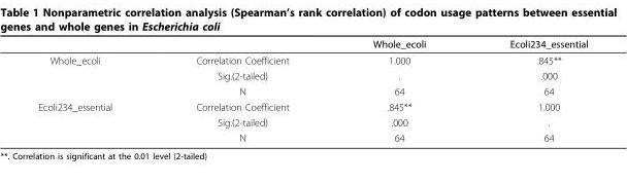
<table><thead><tr><td></td><td></td><td>Whole_ecoli</td><td>Ecoli234_essential</td></tr></thead><tbody><tr><td rowspan="3">Whole_ecoli</td><td>Correlation Coefficient</td><td>1.000</td><td>.845**</td></tr><tr><td>Sig.(2-tailed)</td><td>.</td><td>.000</td></tr><tr><td>N</td><td>64</td><td>64</td></tr><tr><td rowspan="3">Ecoli234_essential</td><td>Correlation Coefficient</td><td>.845**</td><td>1.000</td></tr><tr><td>Sig.(2-tailed)</td><td>.000</td><td>.</td></tr><tr><td>N</td><td>64</td><td>64</td></tr></tbody></table>